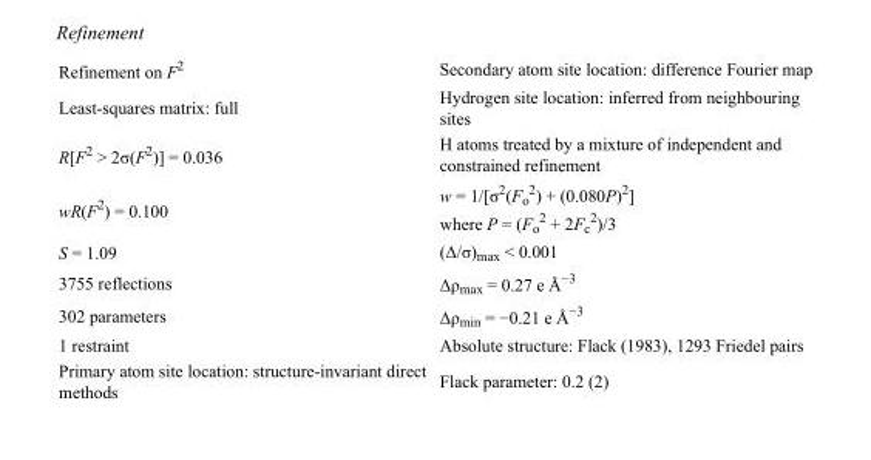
<table><tbody><tr><td>Refinement on F<sup>2</sup></td><td>Secondary atom site location: difference Fourier map</td></tr><tr><td>Least-squares matrix: full</td><td>Hydrogen site location: inferred from neighbouring sites</td></tr><tr><td>R[F<sup>2</sup> &gt; 2σ(F<sup>2</sup>)] = 0.036</td><td>H atoms treated by a mixture of independent and constrained refinement</td></tr><tr><td>wR(F<sup>2</sup>) = 0.100</td><td>w = 1/[σ<sup>2</sup>(F<sub>o</sub> <sup>2</sup>) + (0.080P)<sup>2</sup>] where P = (F<sub>o</sub> <sup>2</sup> + 2F<sub>c</sub> <sup>2</sup>)/3</td></tr><tr><td>S = 1.09</td><td>(Δ/σ)<sub>max</sub> &lt; 0.001</td></tr><tr><td>3755 reflections</td><td>Δρ<sub>max</sub> = 0.27 e Å<sup>−3</sup></td></tr><tr><td>302 parameters</td><td>Δρ<sub>min</sub> = −0.21 e Å<sup>−3</sup></td></tr><tr><td>1 restraint</td><td>Absolute structure: Flack (1983), 1293 Friedel pairs</td></tr><tr><td>Primary atom site location: structure-invariant direct methods</td><td>Flack parameter: 0.2 (2)</td></tr></tbody></table>